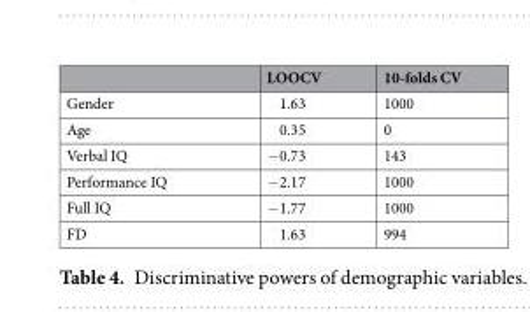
<table><thead><tr><td></td><td>LOOCV</td><td>10-folds CV</td></tr></thead><tbody><tr><td>Gender</td><td>1.63</td><td>1000</td></tr><tr><td>Age</td><td>0.35</td><td>0</td></tr><tr><td>Verbal IQ</td><td>−0.73</td><td>143</td></tr><tr><td>Performance IQ</td><td>−2.17</td><td>1000</td></tr><tr><td>Full IQ</td><td>−1.77</td><td>1000</td></tr><tr><td>FD</td><td>1.63</td><td>994</td></tr></tbody></table>